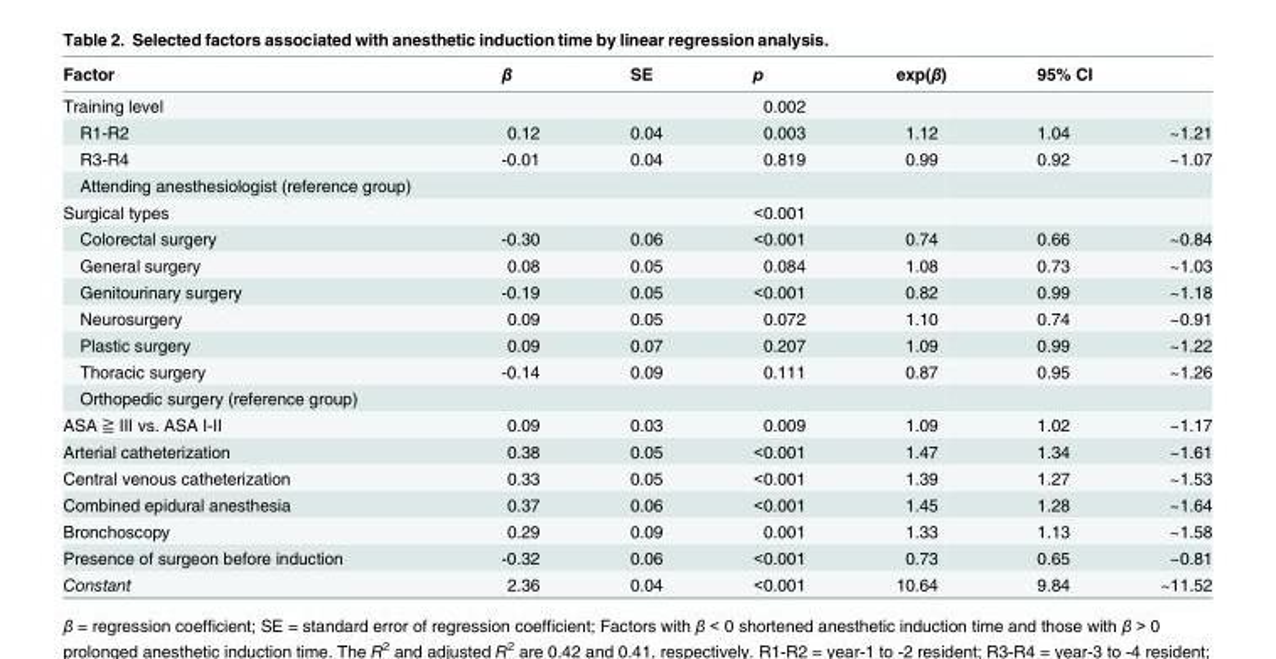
<table><thead><tr><td rowspan="2">Factor Training level</td><td rowspan="2">β</td><td rowspan="2">SE</td><td rowspan="2">p 0.002</td><td rowspan="2">exp(β)</td><td colspan="2">95% CI</td></tr><tr><td></td><td></td></tr></thead><tbody><tr><td>R1-R2</td><td>0.12</td><td>0.04</td><td>0.003</td><td>1.12</td><td>1.04</td><td>~1.21</td></tr><tr><td>R3-R4</td><td>-0.01</td><td>0.04</td><td>0.819</td><td>0.99</td><td>0.92</td><td>~1.07</td></tr><tr><td colspan="7">Attending anesthesiologist (reference group)</td></tr><tr><td>Surgical types</td><td></td><td></td><td>&lt;0.001</td><td></td><td></td><td></td></tr><tr><td>Colorectal surgery</td><td>-0.30</td><td>0.06</td><td>&lt;0.001</td><td>0.74</td><td>0.66</td><td>~0.84</td></tr><tr><td>General surgery</td><td>0.08</td><td>0.05</td><td>0.084</td><td>1.08</td><td>0.73</td><td>~1.03</td></tr><tr><td>Genitourinary surgery</td><td>-0.19</td><td>0.05</td><td>&lt;0.001</td><td>0.82</td><td>0.99</td><td>~1.18</td></tr><tr><td>Neurosurgery</td><td>0.09</td><td>0.05</td><td>0.072</td><td>1.10</td><td>0.74</td><td>~0.91</td></tr><tr><td>Plastic surgery</td><td>0.09</td><td>0.07</td><td>0.207</td><td>1.09</td><td>0.99</td><td>~1.22</td></tr><tr><td>Thoracic surgery</td><td>-0.14</td><td>0.09</td><td>0.111</td><td>0.87</td><td>0.95</td><td>~1.26</td></tr><tr><td colspan="7">Orthopedic surgery (reference group)</td></tr><tr><td>ASA ≧ III vs. ASA I-II</td><td>0.09</td><td>0.03</td><td>0.009</td><td>1.09</td><td>1.02</td><td>~1.17</td></tr><tr><td>Arterial catheterization</td><td>0.38</td><td>0.05</td><td>&lt;0.001</td><td>1.47</td><td>1.34</td><td>~1.61</td></tr><tr><td>Central venous catheterization</td><td>0.33</td><td>0.05</td><td>&lt;0.001</td><td>1.39</td><td>1.27</td><td>~1.53</td></tr><tr><td>Combined epidural anesthesia</td><td>0.37</td><td>0.06</td><td>&lt;0.001</td><td>1.45</td><td>1.28</td><td>~1.64</td></tr><tr><td>Bronchoscopy</td><td>0.29</td><td>0.09</td><td>0.001</td><td>1.33</td><td>1.13</td><td>~1.58</td></tr><tr><td>Presence of surgeon before induction</td><td>-0.32</td><td>0.06</td><td>&lt;0.001</td><td>0.73</td><td>0.65</td><td>~0.81</td></tr><tr><td>Constant</td><td>2.36</td><td>0.04</td><td>&lt;0.001</td><td>10.64</td><td>9.84</td><td>~11.52</td></tr></tbody></table>